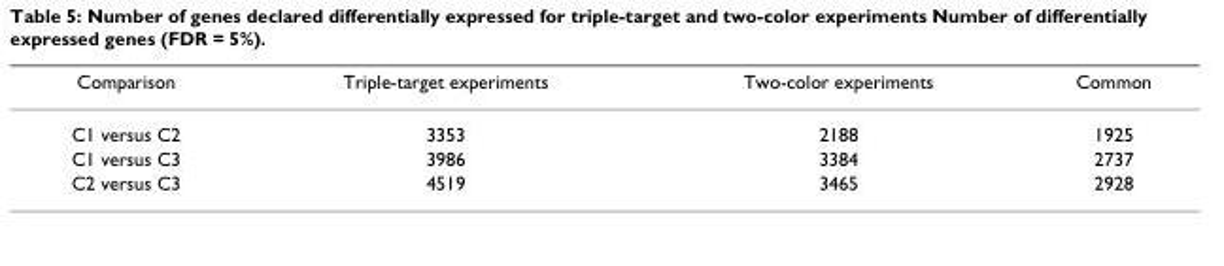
<table><thead><tr><td>Comparison</td><td>Triple-target experiments</td><td>Two-color experiments</td><td>Common</td></tr></thead><tbody><tr><td>C1 versus C2</td><td>3353</td><td>2188</td><td>1925</td></tr><tr><td>C1 versus C3</td><td>3986</td><td>3384</td><td>2737</td></tr><tr><td>C2 versus C3</td><td>4519</td><td>3465</td><td>2928</td></tr></tbody></table>